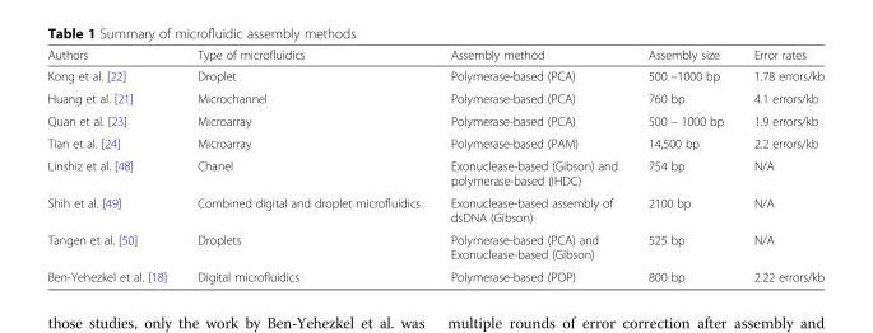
<table><thead><tr><td>Authors</td><td>Type of microfluidics</td><td>Assembly method</td><td>Assembly size</td><td>Error rates</td></tr></thead><tbody><tr><td>Kong et al. [22]</td><td>Droplet</td><td>Polymerase-based (PCA)</td><td>500 –1000 bp</td><td>1.78 errors/kb</td></tr><tr><td>Huang et al. [21]</td><td>Microchannel</td><td>Polymerase-based (PCA)</td><td>760 bp</td><td>4.1 errors/kb</td></tr><tr><td>Quan et al. [23]</td><td>Microarray</td><td>Polymerase-based (PCA)</td><td>500 – 1000 bp</td><td>1.9 errors/kb</td></tr><tr><td>Tian et al. [24]</td><td>Microarray</td><td>Polymerase-based (PAM)</td><td>14,500 bp</td><td>2.2 errors/kb</td></tr><tr><td>Linshiz et al. [48]</td><td>Chanel</td><td>Exonuclease-based (Gibson) and polymerase-based (IHDC)</td><td>754 bp</td><td>N/A</td></tr><tr><td>Shih et al. [49]</td><td>Combined digital and droplet microfluidics</td><td>Exonuclease-based assembly of dsDNA (Gibson)</td><td>2100 bp</td><td>N/A</td></tr><tr><td>Tangen et al. [50]</td><td>Droplets</td><td>Polymerase-based (PCA) and Exonuclease-based (Gibson)</td><td>525 bp</td><td>N/A</td></tr><tr><td>Ben-Yehezkel et al. [18]</td><td>Digital microfluidics</td><td>Polymerase-based (POP)</td><td>800 bp</td><td>2.22 errors/kb</td></tr></tbody></table>